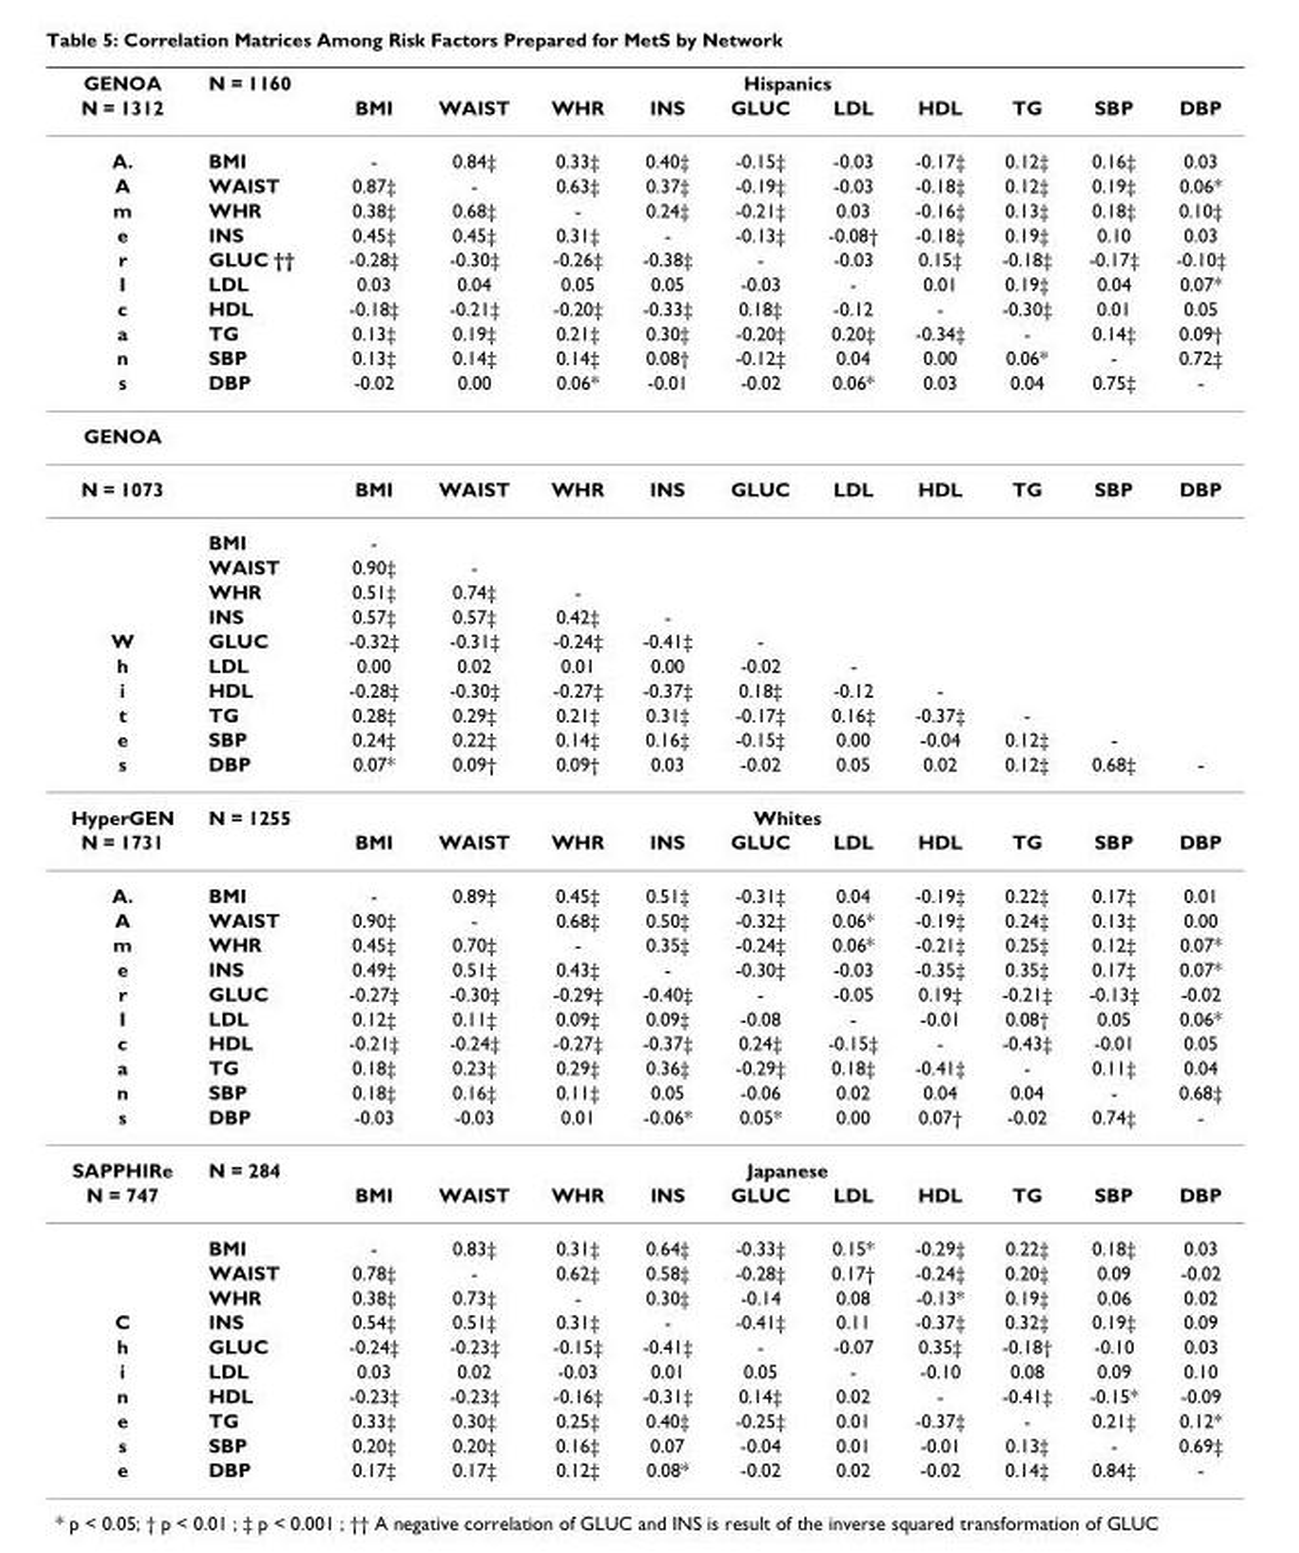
<table><thead><tr><td rowspan="2">GENOA N = 1312</td><td rowspan="2">N = 1160</td><td colspan="10">Hispanics</td></tr><tr><td>BMI</td><td>WAIST</td><td>WHR</td><td>INS</td><td>GLUC</td><td>LDL</td><td>HDL</td><td>TG</td><td>SBP</td><td>DBP</td></tr></thead><tbody><tr><td>A.</td><td>BMI</td><td>-</td><td>0.84‡</td><td>0.33‡</td><td>0.40‡</td><td>-0.15‡</td><td>-0.03</td><td>-0.17‡</td><td>0.12‡</td><td>0.16‡</td><td>0.03</td></tr><tr><td>A</td><td>WAIST</td><td>0.87‡</td><td>-</td><td>0.63‡</td><td>0.37‡</td><td>-0.19‡</td><td>-0.03</td><td>-0.18‡</td><td>0.12‡</td><td>0.19‡</td><td>0.06*</td></tr><tr><td>m</td><td>WHR</td><td>0.38‡</td><td>0.68‡</td><td>-</td><td>0.24‡</td><td>-0.21‡</td><td>0.03</td><td>-0.16‡</td><td>0.13‡</td><td>0.18‡</td><td>0.10‡</td></tr><tr><td>e</td><td>INS</td><td>0.45‡</td><td>0.45‡</td><td>0.31‡</td><td>-</td><td>-0.13‡</td><td>-0.08†</td><td>-0.18‡</td><td>0.19‡</td><td>0.10</td><td>0.03</td></tr><tr><td>r</td><td>GLUC ††</td><td>-0.28‡</td><td>-0.30‡</td><td>-0.26‡</td><td>-0.38‡</td><td>-</td><td>-0.03</td><td>0.15‡</td><td>-0.18‡</td><td>-0.17‡</td><td>-0.10‡</td></tr><tr><td>I</td><td>LDL</td><td>0.03</td><td>0.04</td><td>0.05</td><td>0.05</td><td>-0.03</td><td>-</td><td>0.01</td><td>0.19‡</td><td>0.04</td><td>0.07*</td></tr><tr><td>c</td><td>HDL</td><td>-0.18‡</td><td>-0.21‡</td><td>-0.20‡</td><td>-0.33‡</td><td>0.18‡</td><td>-0.12</td><td>-</td><td>-0.30‡</td><td>0.01</td><td>0.05</td></tr><tr><td>a</td><td>TG</td><td>0.13‡</td><td>0.19‡</td><td>0.21‡</td><td>0.30‡</td><td>-0.20‡</td><td>0.20‡</td><td>-0.34‡</td><td>-</td><td>0.14‡</td><td>0.09†</td></tr><tr><td>n</td><td>SBP</td><td>0.13‡</td><td>0.14‡</td><td>0.14‡</td><td>0.08†</td><td>-0.12‡</td><td>0.04</td><td>0.00</td><td>0.06*</td><td>-</td><td>0.72‡</td></tr><tr><td>s</td><td>DBP</td><td>-0.02</td><td>0.00</td><td>0.06*</td><td>-0.01</td><td>-0.02</td><td>0.06*</td><td>0.03</td><td>0.04</td><td>0.75‡</td><td>-</td></tr><tr><td colspan="12">GENOA</td></tr><tr><td rowspan="5">N = 1073</td><td></td><td>BMI</td><td>WAIST</td><td>WHR</td><td>INS</td><td>GLUC</td><td>LDL</td><td>HDL</td><td>TG</td><td>SBP</td><td>DBP</td></tr><tr><td>BMI</td><td>-</td><td></td><td></td><td></td><td></td><td></td><td></td><td></td><td></td><td></td></tr><tr><td>WAIST</td><td>0.90‡</td><td>-</td><td></td><td></td><td></td><td></td><td></td><td></td><td></td><td></td></tr><tr><td>WHR</td><td>0.51‡</td><td>0.74‡</td><td>-</td><td></td><td></td><td></td><td></td><td></td><td></td><td></td></tr><tr><td>INS</td><td>0.57‡</td><td>0.57‡</td><td>0.42‡</td><td>-</td><td></td><td></td><td></td><td></td><td></td><td></td></tr><tr><td>W</td><td>GLUC</td><td>-0.32‡</td><td>-0.31‡</td><td>-0.24‡</td><td>-0.41‡</td><td>-</td><td></td><td></td><td></td><td></td><td></td></tr><tr><td>h</td><td>LDL</td><td>0.00</td><td>0.02</td><td>0.01</td><td>0.00</td><td>-0.02</td><td>-</td><td></td><td></td><td></td><td></td></tr><tr><td>i</td><td>HDL</td><td>-0.28‡</td><td>-0.30‡</td><td>-0.27‡</td><td>-0.37‡</td><td>0.18‡</td><td>-0.12</td><td>-</td><td></td><td></td><td></td></tr><tr><td>t</td><td>TG</td><td>0.28‡</td><td>0.29‡</td><td>0.21‡</td><td>0.31‡</td><td>-0.17‡</td><td>0.16‡</td><td>-0.37‡</td><td>-</td><td></td><td></td></tr><tr><td>e</td><td>SBP</td><td>0.24‡</td><td>0.22‡</td><td>0.14‡</td><td>0.16‡</td><td>-0.15‡</td><td>0.00</td><td>-0.04</td><td>0.12‡</td><td>-</td><td></td></tr><tr><td>s</td><td>DBP</td><td>0.07*</td><td>0.09†</td><td>0.09†</td><td>0.03</td><td>-0.02</td><td>0.05</td><td>0.02</td><td>0.12‡</td><td>0.68‡</td><td>-</td></tr><tr><td>HyperGEN</td><td>N = 1255</td><td colspan="10">Whites</td></tr><tr><td>N = 1731</td><td></td><td>BMI</td><td>WAIST</td><td>WHR</td><td>INS</td><td>GLUC</td><td>LDL</td><td>HDL</td><td>TG</td><td>SBP</td><td>DBP</td></tr><tr><td>A.</td><td>BMI</td><td>-</td><td>0.89‡</td><td>0.45‡</td><td>0.51‡</td><td>-0.31‡</td><td>0.04</td><td>-0.19‡</td><td>0.22‡</td><td>0.17‡</td><td>0.01</td></tr><tr><td>A</td><td>WAIST</td><td>0.90‡</td><td>-</td><td>0.68‡</td><td>0.50‡</td><td>-0.32‡</td><td>0.06*</td><td>-0.19‡</td><td>0.24‡</td><td>0.13‡</td><td>0.00</td></tr><tr><td>m</td><td>WHR</td><td>0.45‡</td><td>0.70‡</td><td>-</td><td>0.35‡</td><td>-0.24‡</td><td>0.06*</td><td>-0.21‡</td><td>0.25‡</td><td>0.12‡</td><td>0.07*</td></tr><tr><td>e</td><td>INS</td><td>0.49‡</td><td>0.51‡</td><td>0.43‡</td><td>-</td><td>-0.30‡</td><td>-0.03</td><td>-0.35‡</td><td>0.35‡</td><td>0.17‡</td><td>0.07*</td></tr><tr><td>r</td><td>GLUC</td><td>-0.27‡</td><td>-0.30‡</td><td>-0.29‡</td><td>-0.40‡</td><td>-</td><td>-0.05</td><td>0.19‡</td><td>-0.21‡</td><td>-0.13‡</td><td>-0.02</td></tr><tr><td>I</td><td>LDL</td><td>0.12‡</td><td>0.11‡</td><td>0.09‡</td><td>0.09‡</td><td>-0.08</td><td>-</td><td>-0.01</td><td>0.08†</td><td>0.05</td><td>0.06*</td></tr><tr><td>c</td><td>HDL</td><td>-0.21‡</td><td>-0.24‡</td><td>-0.27‡</td><td>-0.37‡</td><td>0.24‡</td><td>-0.15‡</td><td>-</td><td>-0.43‡</td><td>-0.01</td><td>0.05</td></tr><tr><td>a</td><td>TG</td><td>0.18‡</td><td>0.23‡</td><td>0.29‡</td><td>0.36‡</td><td>-0.29‡</td><td>0.18‡</td><td>-0.41‡</td><td>-</td><td>0.11‡</td><td>0.04</td></tr><tr><td>n</td><td>SBP</td><td>0.18‡</td><td>0.16‡</td><td>0.11‡</td><td>0.05</td><td>-0.06</td><td>0.02</td><td>0.04</td><td>0.04</td><td>-</td><td>0.68‡</td></tr><tr><td>s</td><td>DBP</td><td>-0.03</td><td>-0.03</td><td>0.01</td><td>-0.06*</td><td>0.05*</td><td>0.00</td><td>0.07†</td><td>-0.02</td><td>0.74‡</td><td>-</td></tr><tr><td>SAPPHIRe</td><td>N = 284</td><td colspan="10">Japanese</td></tr><tr><td rowspan="4">N = 747</td><td></td><td>BMI</td><td>WAIST</td><td>WHR</td><td>INS</td><td>GLUC</td><td>LDL</td><td>HDL</td><td>TG</td><td>SBP</td><td>DBP</td></tr><tr><td>BMI</td><td>-</td><td>0.83‡</td><td>0.31‡</td><td>0.64‡</td><td>-0.33‡</td><td>0.15*</td><td>-0.29‡</td><td>0.22‡</td><td>0.18‡</td><td>0.03</td></tr><tr><td>WAIST</td><td>0.78‡</td><td>-</td><td>0.62‡</td><td>0.58‡</td><td>-0.28‡</td><td>0.17†</td><td>-0.24‡</td><td>0.20‡</td><td>0.09</td><td>-0.02</td></tr><tr><td>WHR</td><td>0.38‡</td><td>0.73‡</td><td>-</td><td>0.30‡</td><td>-0.14</td><td>0.08</td><td>-0.13*</td><td>0.19‡</td><td>0.06</td><td>0.02</td></tr><tr><td>C</td><td>INS</td><td>0.54‡</td><td>0.51‡</td><td>0.31‡</td><td>-</td><td>-0.41‡</td><td>0.11</td><td>-0.37‡</td><td>0.32‡</td><td>0.19‡</td><td>0.09</td></tr><tr><td>h</td><td>GLUC</td><td>-0.24‡</td><td>-0.23‡</td><td>-0.15‡</td><td>-0.41‡</td><td>-</td><td>-0.07</td><td>0.35‡</td><td>-0.18†</td><td>-0.10</td><td>0.03</td></tr><tr><td>i</td><td>LDL</td><td>0.03</td><td>0.02</td><td>-0.03</td><td>0.01</td><td>0.05</td><td>-</td><td>-0.10</td><td>0.08</td><td>0.09</td><td>0.10</td></tr><tr><td>n</td><td>HDL</td><td>-0.23‡</td><td>-0.23‡</td><td>-0.16‡</td><td>-0.31‡</td><td>0.14‡</td><td>0.02</td><td>-</td><td>-0.41‡</td><td>-0.15*</td><td>-0.09</td></tr><tr><td>e</td><td>TG</td><td>0.33‡</td><td>0.30‡</td><td>0.25‡</td><td>0.40‡</td><td>-0.25‡</td><td>0.01</td><td>-0.37‡</td><td>-</td><td>0.21‡</td><td>0.12*</td></tr><tr><td>s</td><td>SBP</td><td>0.20‡</td><td>0.20‡</td><td>0.16‡</td><td>0.07</td><td>-0.04</td><td>0.01</td><td>-0.01</td><td>0.13‡</td><td>-</td><td>0.69‡</td></tr><tr><td>e</td><td>DBP</td><td>0.17‡</td><td>0.17‡</td><td>0.12‡</td><td>0.08*</td><td>-0.02</td><td>0.02</td><td>-0.02</td><td>0.14‡</td><td>0.84‡</td><td>-</td></tr></tbody></table>